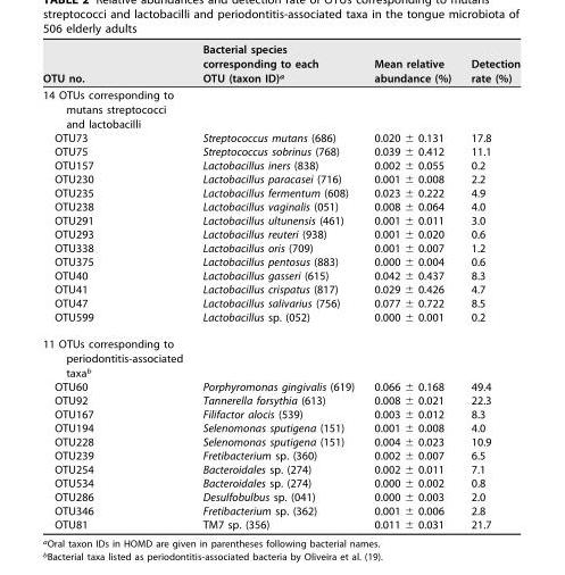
<table><thead><tr><td>OTU no.</td><td>Bacterial species corresponding to each OTU (taxon ID)<sup>a</sup></td><td>Mean relative abundance (%)</td><td>Detection rate (%)</td></tr></thead><tbody><tr><td colspan="4">14 OTUs corresponding to mutans streptococci and lactobacilli</td></tr><tr><td>OTU73</td><td>Streptococcus mutans (686)</td><td>0.020 ± 0.131</td><td>17.8</td></tr><tr><td>OTU75</td><td>Streptococcus sobrinus (768)</td><td>0.039 ± 0.412</td><td>11.1</td></tr><tr><td>OTU157</td><td>Lactobacillus iners (838)</td><td>0.002 ± 0.055</td><td>0.2</td></tr><tr><td>OTU230</td><td>Lactobacillus paracasei (716)</td><td>0.001 ± 0.008</td><td>2.2</td></tr><tr><td>OTU235</td><td>Lactobacillus fermentum (608)</td><td>0.023 ± 0.222</td><td>4.9</td></tr><tr><td>OTU238</td><td>Lactobacillus vaginalis (051)</td><td>0.008 ± 0.064</td><td>4.0</td></tr><tr><td>OTU291</td><td>Lactobacillus ultunensis (461)</td><td>0.001 ± 0.011</td><td>3.0</td></tr><tr><td>OTU293</td><td>Lactobacillus reuteri (938)</td><td>0.001 ± 0.020</td><td>0.6</td></tr><tr><td>OTU338</td><td>Lactobacillus oris (709)</td><td>0.001 ± 0.007</td><td>1.2</td></tr><tr><td>OTU375</td><td>Lactobacillus pentosus (883)</td><td>0.000 ± 0.004</td><td>0.6</td></tr><tr><td>OTU40</td><td>Lactobacillus gasseri (615)</td><td>0.042 ± 0.437</td><td>8.3</td></tr><tr><td>OTU41</td><td>Lactobacillus crispatus (817)</td><td>0.029 ± 0.426</td><td>4.7</td></tr><tr><td>OTU47</td><td>Lactobacillus salivarius (756)</td><td>0.077 ± 0.722</td><td>8.5</td></tr><tr><td>OTU599</td><td>Lactobacillus sp. (052)</td><td>0.000 ± 0.001</td><td>0.2</td></tr><tr><td colspan="4">11 OTUs corresponding to periodontitis-associated taxa<sup>b</sup></td></tr><tr><td>OTU60</td><td>Porphyromonas gingivalis (619)</td><td>0.066 ± 0.168</td><td>49.4</td></tr><tr><td>OTU92</td><td>Tannerella forsythia (613)</td><td>0.008 ± 0.021</td><td>22.3</td></tr><tr><td>OTU167</td><td>Filifactor alocis (539)</td><td>0.003 ± 0.012</td><td>8.3</td></tr><tr><td>OTU194</td><td>Selenomonas sputigena (151)</td><td>0.001 ± 0.008</td><td>4.0</td></tr><tr><td>OTU228</td><td>Selenomonas sputigena (151)</td><td>0.004 ± 0.023</td><td>10.9</td></tr><tr><td>OTU239</td><td>Fretibacterium sp. (360)</td><td>0.002 ± 0.007</td><td>6.5</td></tr><tr><td>OTU254</td><td>Bacteroidales sp. (274)</td><td>0.002 ± 0.011</td><td>7.1</td></tr><tr><td>OTU534</td><td>Bacteroidales sp. (274)</td><td>0.000 ± 0.002</td><td>0.8</td></tr><tr><td>OTU286</td><td>Desulfobulbus sp. (041)</td><td>0.000 ± 0.003</td><td>2.0</td></tr><tr><td>OTU346</td><td>Fretibacterium sp. (362)</td><td>0.001 ± 0.006</td><td>2.8</td></tr><tr><td>OTU81</td><td>TM7 sp. (356)</td><td>0.011 ± 0.031</td><td>21.7</td></tr></tbody></table>